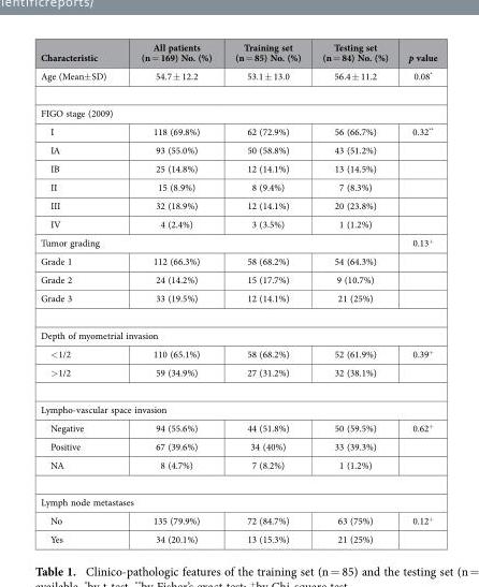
<table><thead><tr><td>Characteristic</td><td>All patients (n = 169) No. (%)</td><td>Training set (n = 85) No. (%)</td><td>Testing set (n = 84) No. (%)</td><td>p value</td></tr></thead><tbody><tr><td>Age (Mean± SD)</td><td>54.7 ± 12.2</td><td>53.1 ± 13.0</td><td>56.4 ± 11.2</td><td>0.08*</td></tr><tr><td colspan="5">FIGO stage (2009)</td></tr><tr><td>I</td><td>118 (69.8%)</td><td>62 (72.9%)</td><td>56 (66.7%)</td><td>0.32**</td></tr><tr><td>IA</td><td>93 (55.0%)</td><td>50 (58.8%)</td><td>43 (51.2%)</td><td></td></tr><tr><td>IB</td><td>25 (14.8%)</td><td>12 (14.1%)</td><td>13 (14.5%)</td><td></td></tr><tr><td>II</td><td>15 (8.9%)</td><td>8 (9.4%)</td><td>7 (8.3%)</td><td></td></tr><tr><td>III</td><td>32 (18.9%)</td><td>12 (14.1%)</td><td>20 (23.8%)</td><td></td></tr><tr><td>IV</td><td>4 (2.4%)</td><td>3 (3.5%)</td><td>1 (1.2%)</td><td></td></tr><tr><td colspan="4">Tumor grading</td><td>0.13<sup>+</sup></td></tr><tr><td>Grade 1</td><td>112 (66.3%)</td><td>58 (68.2%)</td><td>54 (64.3%)</td><td></td></tr><tr><td>Grade 2</td><td>24 (14.2%)</td><td>15 (17.7%)</td><td>9 (10.7%)</td><td></td></tr><tr><td>Grade 3</td><td>33 (19.5%)</td><td>12 (14.1%)</td><td>21 (25%)</td><td></td></tr><tr><td colspan="5">Depth of myometrial invasion</td></tr><tr><td>&lt; 1/2</td><td>110 (65.1%)</td><td>58 (68.2%)</td><td>52 (61.9%)</td><td>0.39<sup>+</sup></td></tr><tr><td>&gt; 1/2</td><td>59 (34.9%)</td><td>27 (31.2%)</td><td>32 (38.1%)</td><td></td></tr><tr><td colspan="5">Lympho-vascular space invasion</td></tr><tr><td>Negative</td><td>94 (55.6%)</td><td>44 (51.8%)</td><td>50 (59.5%)</td><td>0.62<sup>+</sup></td></tr><tr><td>Positive</td><td>67 (39.6%)</td><td>34 (40%)</td><td>33 (39.3%)</td><td></td></tr><tr><td>NA</td><td>8 (4.7%)</td><td>7 (8.2%)</td><td>1 (1.2%)</td><td></td></tr><tr><td colspan="5">Lymph node metastases</td></tr><tr><td>No</td><td>135 (79.9%)</td><td>72 (84.7%)</td><td>63 (75%)</td><td>0.12<sup>+</sup></td></tr><tr><td>Yes</td><td>34 (20.1%)</td><td>13 (15.3%)</td><td>21 (25%)</td><td></td></tr></tbody></table>